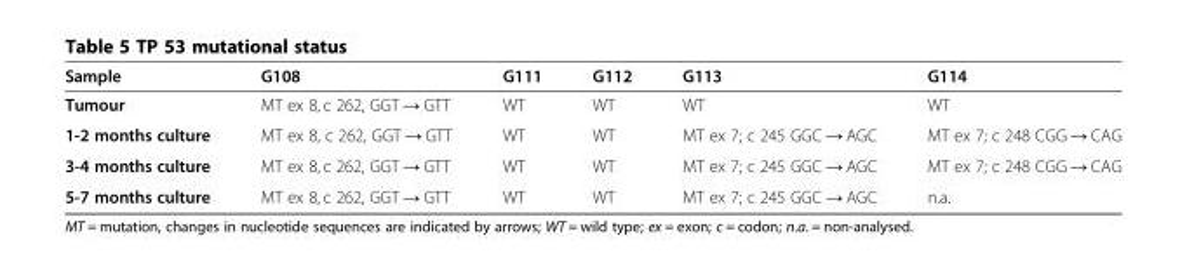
<table><thead><tr><td>Sample</td><td>G108</td><td>G111</td><td>G112</td><td>G113</td><td>G114</td></tr></thead><tbody><tr><td>Tumour</td><td>MT ex 8, c 262, GGT → GTT</td><td>WT</td><td>WT</td><td>WT</td><td>WT</td></tr><tr><td>1-2 months culture</td><td>MT ex 8, c 262, GGT → GTT</td><td>WT</td><td>WT</td><td>MT ex 7; c 245 GGC → AGC</td><td>MT ex 7; c 248 CGG → CAG</td></tr><tr><td>3-4 months culture</td><td>MT ex 8, c 262, GGT → GTT</td><td>WT</td><td>WT</td><td>MT ex 7; c 245 GGC → AGC</td><td>MT ex 7; c 248 CGG → CAG</td></tr><tr><td>5-7 months culture</td><td>MT ex 8, c 262, GGT → GTT</td><td>WT</td><td>WT</td><td>MT ex 7; c 245 GGC → AGC</td><td>n.a.</td></tr></tbody></table>